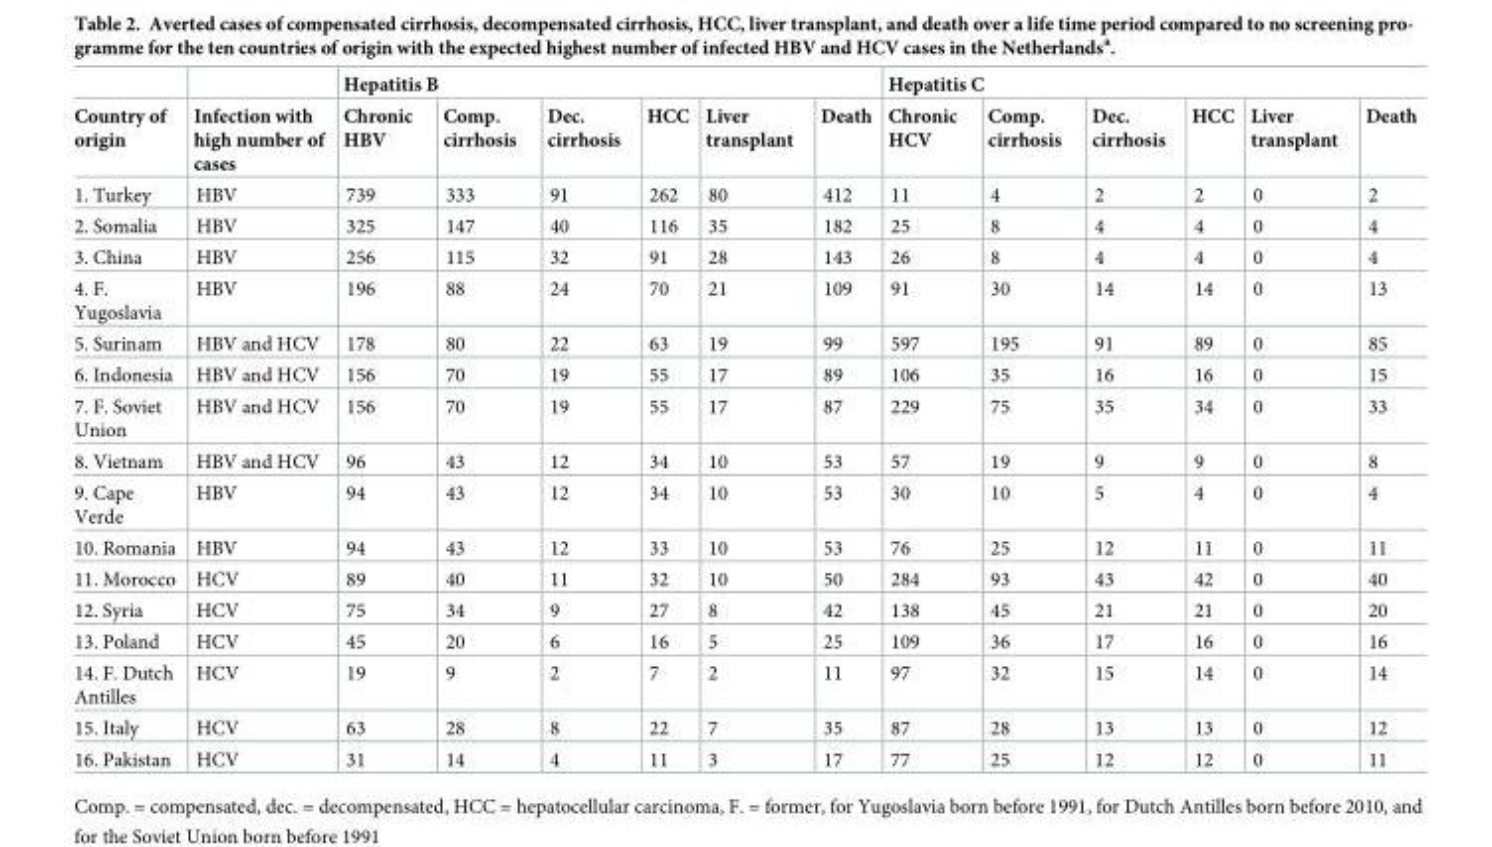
<table><thead><tr><td rowspan="2">Country of origin</td><td rowspan="2">Infection with high number of cases</td><td colspan="6">Hepatitis B</td><td colspan="6">Hepatitis C</td></tr><tr><td>Chronic HBV</td><td>Comp. cirrhosis</td><td>Dec. cirrhosis</td><td>HCC</td><td>Liver transplant</td><td>Death</td><td>Chronic HCV</td><td>Comp. cirrhosis</td><td>Dec. cirrhosis</td><td>HCC</td><td>Liver transplant</td><td>Death</td></tr></thead><tbody><tr><td>1. Turkey</td><td>HBV</td><td>739</td><td>333</td><td>91</td><td>262</td><td>80</td><td>412</td><td>11</td><td>4</td><td>2</td><td>2</td><td>0</td><td>2</td></tr><tr><td>2. Somalia</td><td>HBV</td><td>325</td><td>147</td><td>40</td><td>116</td><td>35</td><td>182</td><td>25</td><td>8</td><td>4</td><td>4</td><td>0</td><td>4</td></tr><tr><td>3. China</td><td>HBV</td><td>256</td><td>115</td><td>32</td><td>91</td><td>28</td><td>143</td><td>26</td><td>8</td><td>4</td><td>4</td><td>0</td><td>4</td></tr><tr><td>4. F. Yugoslavia</td><td>HBV</td><td>196</td><td>88</td><td>24</td><td>70</td><td>21</td><td>109</td><td>91</td><td>30</td><td>14</td><td>14</td><td>0</td><td>13</td></tr><tr><td>5. Surinam</td><td>HBV and HCV</td><td>178</td><td>80</td><td>22</td><td>63</td><td>19</td><td>99</td><td>597</td><td>195</td><td>91</td><td>89</td><td>0</td><td>85</td></tr><tr><td>6. Indonesia</td><td>HBV and HCV</td><td>156</td><td>70</td><td>19</td><td>55</td><td>17</td><td>89</td><td>106</td><td>35</td><td>16</td><td>16</td><td>0</td><td>15</td></tr><tr><td>7. F. Soviet Union</td><td>HBV and HCV</td><td>156</td><td>70</td><td>19</td><td>55</td><td>17</td><td>87</td><td>229</td><td>75</td><td>35</td><td>34</td><td>0</td><td>33</td></tr><tr><td>8. Vietnam</td><td>HBV and HCV</td><td>96</td><td>43</td><td>12</td><td>34</td><td>10</td><td>53</td><td>57</td><td>19</td><td>9</td><td>9</td><td>0</td><td>8</td></tr><tr><td>9. Cape Verde</td><td>HBV</td><td>94</td><td>43</td><td>12</td><td>34</td><td>10</td><td>53</td><td>30</td><td>10</td><td>5</td><td>4</td><td>0</td><td>4</td></tr><tr><td>10. Romania</td><td>HBV</td><td>94</td><td>43</td><td>12</td><td>33</td><td>10</td><td>53</td><td>76</td><td>25</td><td>12</td><td>11</td><td>0</td><td>11</td></tr><tr><td>11. Morocco</td><td>HCV</td><td>89</td><td>40</td><td>11</td><td>32</td><td>10</td><td>50</td><td>284</td><td>93</td><td>43</td><td>42</td><td>0</td><td>40</td></tr><tr><td>12. Syria</td><td>HCV</td><td>75</td><td>34</td><td>9</td><td>27</td><td>8</td><td>42</td><td>138</td><td>45</td><td>21</td><td>21</td><td>0</td><td>20</td></tr><tr><td>13. Poland</td><td>HCV</td><td>45</td><td>20</td><td>6</td><td>16</td><td>5</td><td>25</td><td>109</td><td>36</td><td>17</td><td>16</td><td>0</td><td>16</td></tr><tr><td>14. F. Dutch Antilles</td><td>HCV</td><td>19</td><td>9</td><td>2</td><td>7</td><td>2</td><td>11</td><td>97</td><td>32</td><td>15</td><td>14</td><td>0</td><td>14</td></tr><tr><td>15. Italy</td><td>HCV</td><td>63</td><td>28</td><td>8</td><td>22</td><td>7</td><td>35</td><td>87</td><td>28</td><td>13</td><td>13</td><td>0</td><td>12</td></tr><tr><td>16. Pakistan</td><td>HCV</td><td>31</td><td>14</td><td>4</td><td>11</td><td>3</td><td>17</td><td>77</td><td>25</td><td>12</td><td>12</td><td>0</td><td>11</td></tr></tbody></table>